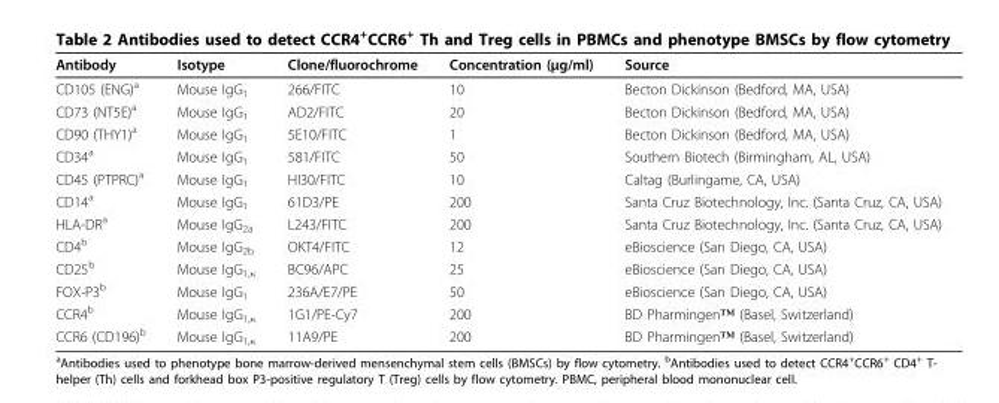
<table><thead><tr><td>Antibody</td><td>Isotype</td><td>Clone/fluorochrome</td><td>Concentration (μg/ml)</td><td>Source</td></tr></thead><tbody><tr><td>CD105 (ENG)a</td><td>Mouse IgG1</td><td>266/FITC</td><td>10</td><td>Becton Dickinson (Bedford, MA, USA)</td></tr><tr><td>CD73 (NT5E)a</td><td>Mouse IgG1</td><td>AD2/FITC</td><td>20</td><td>Becton Dickinson (Bedford, MA, USA)</td></tr><tr><td>CD90 (THY1)a</td><td>Mouse IgG1</td><td>5E10/FITC</td><td>1</td><td>Becton Dickinson (Bedford, MA, USA)</td></tr><tr><td>CD34a</td><td>Mouse IgG1</td><td>581/FITC</td><td>50</td><td>Southern Biotech (Birmingham, AL, USA)</td></tr><tr><td>CD45 (PTPRC)a</td><td>Mouse IgG1</td><td>HI30/FITC</td><td>10</td><td>Caltag (Burlingame, CA, USA)</td></tr><tr><td>CD14a</td><td>Mouse IgG1</td><td>61D3/PE</td><td>200</td><td>Santa Cruz Biotechnology, Inc. (Santa Cruz, CA, USA)</td></tr><tr><td>HLA-DRa</td><td>Mouse IgG2a</td><td>L243/FITC</td><td>200</td><td>Santa Cruz Biotechnology, Inc. (Santa Cruz, CA, USA)</td></tr><tr><td>CD4b</td><td>Mouse IgG2b</td><td>OKT4/FITC</td><td>12</td><td>eBioscience (San Diego, CA, USA)</td></tr><tr><td>CD25b</td><td>Mouse IgG1,κ</td><td>BC96/APC</td><td>25</td><td>eBioscience (San Diego, CA, USA)</td></tr><tr><td>FOX-P3b</td><td>Mouse IgG1</td><td>236A/E7/PE</td><td>50</td><td>eBioscience (San Diego, CA, USA)</td></tr><tr><td>CCR4b</td><td>Mouse IgG1,κ</td><td>1G1/PE-Cy7</td><td>200</td><td>BD Pharmingen™ (Basel, Switzerland)</td></tr><tr><td>CCR6 (CD196)b</td><td>Mouse IgG1,κ</td><td>11A9/PE</td><td>200</td><td>BD Pharmingen™ (Basel, Switzerland)</td></tr></tbody></table>